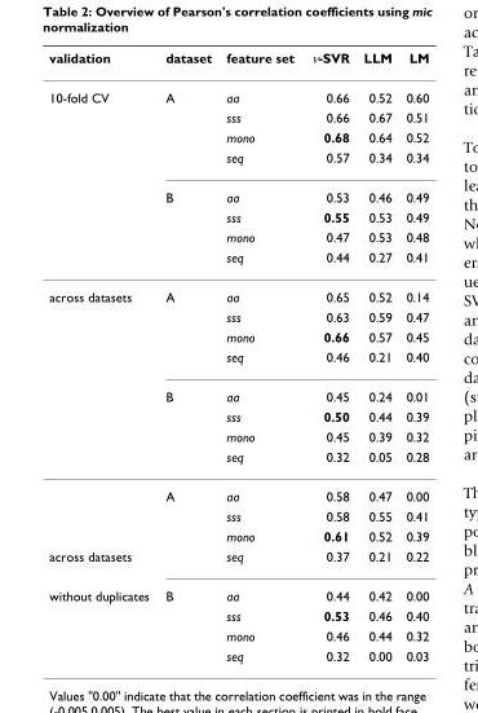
<table><thead><tr><td>validation</td><td>dataset</td><td>feature set</td><td>ν-SVR</td><td>LLM</td><td>LM</td></tr></thead><tbody><tr><td rowspan="8">10-fold CV</td><td>A</td><td>aa</td><td>0.66</td><td>0.52</td><td>0.60</td></tr><tr><td></td><td>sss</td><td>0.66</td><td>0.67</td><td>0.51</td></tr><tr><td></td><td>mono</td><td>0.68</td><td>0.64</td><td>0.52</td></tr><tr><td></td><td>seq</td><td>0.57</td><td>0.34</td><td>0.34</td></tr><tr><td>B</td><td>aa</td><td>0.53</td><td>0.46</td><td>0.49</td></tr><tr><td></td><td>sss</td><td>0.55</td><td>0.53</td><td>0.49</td></tr><tr><td></td><td>mono</td><td>0.47</td><td>0.53</td><td>0.48</td></tr><tr><td></td><td>seq</td><td>0.44</td><td>0.27</td><td>0.41</td></tr><tr><td rowspan="11">across datasets</td><td>A</td><td>aa</td><td>0.65</td><td>0.52</td><td>0.14</td></tr><tr><td></td><td>sss</td><td>0.63</td><td>0.59</td><td>0.47</td></tr><tr><td></td><td>mono</td><td>0.66</td><td>0.57</td><td>0.45</td></tr><tr><td></td><td>seq</td><td>0.46</td><td>0.21</td><td>0.40</td></tr><tr><td>B</td><td>aa</td><td>0.45</td><td>0.24</td><td>0.01</td></tr><tr><td></td><td>sss</td><td>0.50</td><td>0.44</td><td>0.39</td></tr><tr><td></td><td>mono</td><td>0.45</td><td>0.39</td><td>0.32</td></tr><tr><td></td><td>seq</td><td>0.32</td><td>0.05</td><td>0.28</td></tr><tr><td>A</td><td>aa</td><td>0.58</td><td>0.47</td><td>0.00</td></tr><tr><td></td><td>sss</td><td>0.58</td><td>0.55</td><td>0.41</td></tr><tr><td></td><td>mono</td><td>0.61</td><td>0.52</td><td>0.39</td></tr><tr><td>across datasets</td><td></td><td>seq</td><td>0.37</td><td>0.21</td><td>0.22</td></tr><tr><td rowspan="4">without duplicates</td><td>B</td><td>aa</td><td>0.44</td><td>0.42</td><td>0.00</td></tr><tr><td></td><td>sss</td><td>0.53</td><td>0.46</td><td>0.40</td></tr><tr><td></td><td>mono</td><td>0.46</td><td>0.44</td><td>0.32</td></tr><tr><td></td><td>seq</td><td>0.32</td><td>0.00</td><td>0.03</td></tr></tbody></table>